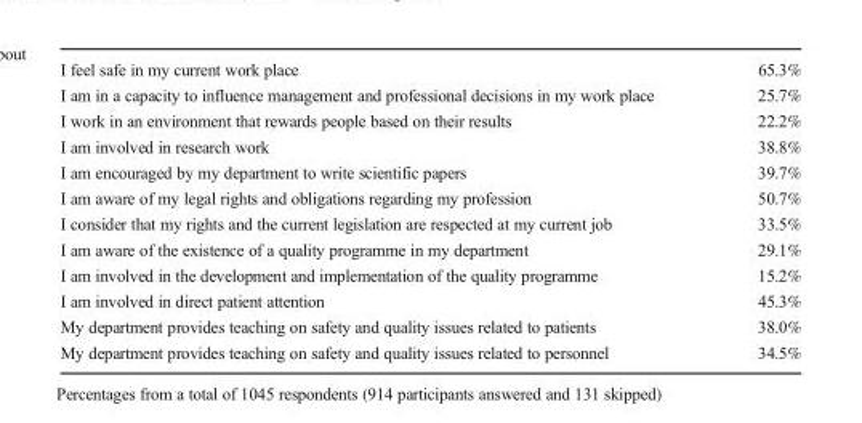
<table><tbody><tr><td>I feel safe in my current work place</td><td>65.3%</td></tr><tr><td>I am in a capacity to influence management and professional decisions in my work place</td><td>25.7%</td></tr><tr><td>I work in an environment that rewards people based on their results</td><td>22.2%</td></tr><tr><td>I am involved in research work</td><td>38.8%</td></tr><tr><td>I am encouraged by my department to write scientific papers</td><td>39.7%</td></tr><tr><td>I am aware of my legal rights and obligations regarding my profession</td><td>50.7%</td></tr><tr><td>I consider that my rights and the current legislation are respected at my current job</td><td>33.5%</td></tr><tr><td>I am aware of the existence of a quality programme in my department</td><td>29.1%</td></tr><tr><td>I am involved in the development and implementation of the quality programme</td><td>15.2%</td></tr><tr><td>I am involved in direct patient attention</td><td>45.3%</td></tr><tr><td>My department provides teaching on safety and quality issues related to patients</td><td>38.0%</td></tr><tr><td>My department provides teaching on safety and quality issues related to personnel</td><td>34.5%</td></tr></tbody></table>